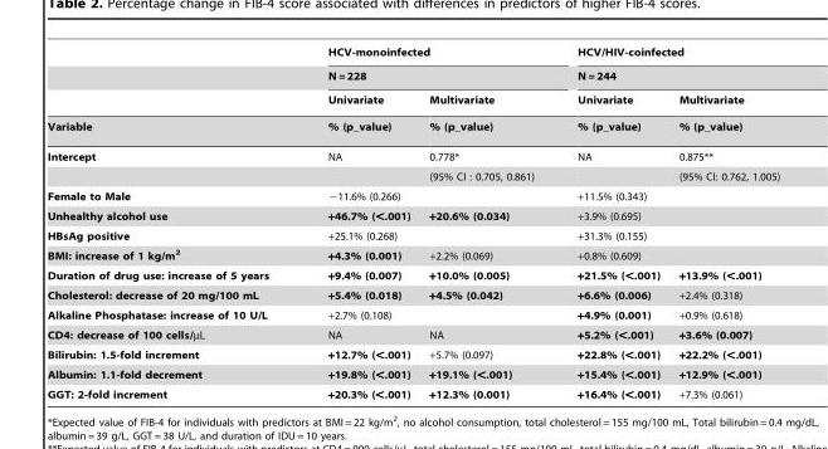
<table><thead><tr><td rowspan="3"></td><td rowspan="2" colspan="2">HCV-monoinfected N = 228</td><td rowspan="2" colspan="2">HCV/HIV-coinfected N = 244</td></tr><tr></tr><tr><td>Univariate</td><td>Multivariate</td><td>Univariate</td><td>Multivariate</td></tr></thead><tbody><tr><td>Variable</td><td>% (p_value)</td><td>% (p_value)</td><td>% (p_value)</td><td>% (p_value)</td></tr><tr><td rowspan="2">Intercept</td><td>NA</td><td>0.778*</td><td>NA</td><td>0.875**</td></tr><tr><td></td><td>(95% CI : 0.705, 0.861)</td><td></td><td>(95% CI: 0.762, 1.005)</td></tr><tr><td>Female to Male</td><td>−11.6% (0.266)</td><td></td><td>+11.5% (0.343)</td><td></td></tr><tr><td>Unhealthy alcohol use</td><td>+46.7% (&lt;.001)</td><td>+20.6% (0.034)</td><td>+3.9% (0.695)</td><td></td></tr><tr><td>HBsAg positive</td><td>+25.1% (0.268)</td><td></td><td>+31.3% (0.155)</td><td></td></tr><tr><td>BMI: increase of 1 kg/m<sup>2</sup></td><td>+4.3% (0.001)</td><td>+2.2% (0.069)</td><td>+0.8% (0.609)</td><td></td></tr><tr><td>Duration of drug use: increase of 5 years</td><td>+9.4% (0.007)</td><td>+10.0% (0.005)</td><td>+21.5% (&lt;.001)</td><td>+13.9% (&lt;.001)</td></tr><tr><td>Cholesterol: decrease of 20 mg/100 mL</td><td>+5.4% (0.018)</td><td>+4.5% (0.042)</td><td>+6.6% (0.006)</td><td>+2.4% (0.318)</td></tr><tr><td>Alkaline Phosphatase: increase of 10 U/L</td><td>+2.7% (0.108)</td><td></td><td>+4.9% (0.001)</td><td>+0.9% (0.618)</td></tr><tr><td>CD4: decrease of 100 cells/µL</td><td>NA</td><td>NA</td><td>+5.2% (&lt;.001)</td><td>+3.6% (0.007)</td></tr><tr><td>Bilirubin: 1.5-fold increment</td><td>+12.7% (&lt;.001)</td><td>+5.7% (0.097)</td><td>+22.8% (&lt;.001)</td><td>+22.2% (&lt;.001)</td></tr><tr><td>Albumin: 1.1-fold decrement</td><td>+19.8% (&lt;.001)</td><td>+19.1% (&lt;.001)</td><td>+15.4% (&lt;.001)</td><td>+12.9% (&lt;.001)</td></tr><tr><td>GGT: 2-fold increment</td><td>+20.3% (&lt;.001)</td><td>+12.3% (0.001)</td><td>+16.4% (&lt;.001)</td><td>+7.3% (0.061)</td></tr></tbody></table>